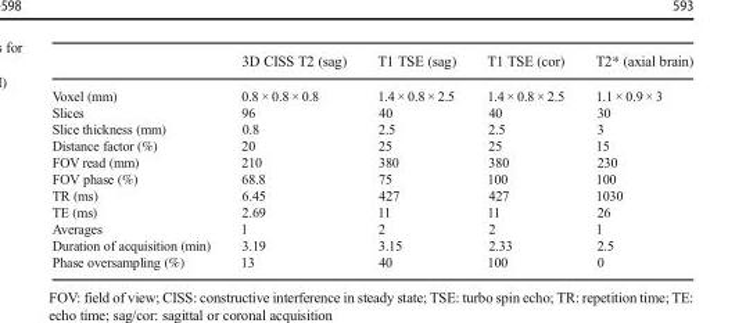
<table><thead><tr><td></td><td>3D CISS T2 (sag)</td><td>T1 TSE (sag)</td><td>T1 TSE (cor)</td><td>T2* (axial brain)</td></tr></thead><tbody><tr><td>Voxel (mm)</td><td>0.8 × 0.8 × 0.8</td><td>1.4 × 0.8 × 2.5</td><td>1.4 × 0.8 × 2.5</td><td>1.1 × 0.9 × 3</td></tr><tr><td>Slices</td><td>96</td><td>40</td><td>40</td><td>30</td></tr><tr><td>Slice thickness (mm)</td><td>0.8</td><td>2.5</td><td>2.5</td><td>3</td></tr><tr><td>Distance factor (%)</td><td>20</td><td>25</td><td>25</td><td>15</td></tr><tr><td>FOV read (mm)</td><td>210</td><td>380</td><td>380</td><td>230</td></tr><tr><td>FOV phase (%)</td><td>68.8</td><td>75</td><td>100</td><td>100</td></tr><tr><td>TR (ms)</td><td>6.45</td><td>427</td><td>427</td><td>1030</td></tr><tr><td>TE (ms)</td><td>2.69</td><td>11</td><td>11</td><td>26</td></tr><tr><td>Averages</td><td>1</td><td>2</td><td>2</td><td>1</td></tr><tr><td>Duration of acquisition (min)</td><td>3.19</td><td>3.15</td><td>2.33</td><td>2.5</td></tr><tr><td>Phase oversampling (%)</td><td>13</td><td>40</td><td>100</td><td>0</td></tr></tbody></table>